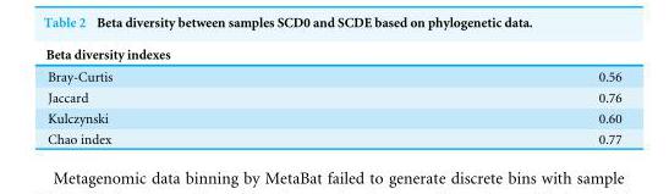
<table><thead><tr><td colspan="2">Beta diversity indexes</td></tr><tr><td>Bray-Curtis</td><td>0.56</td></tr></thead><tbody><tr><td>Jaccard</td><td>0.76</td></tr><tr><td>Kulczynski</td><td>0.60</td></tr><tr><td>Chao index</td><td>0.77</td></tr></tbody></table>